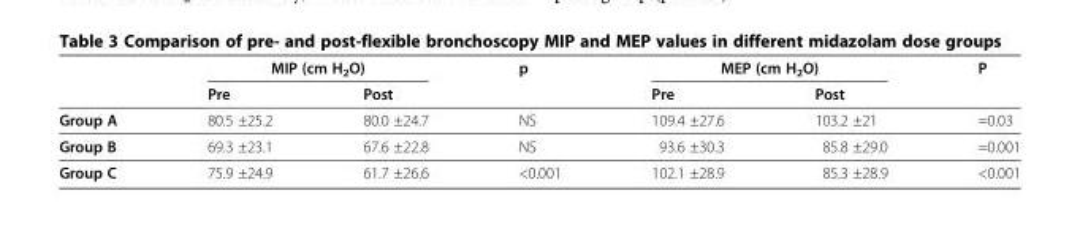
<table><thead><tr><td rowspan="2"></td><td colspan="2">MIP (cm H<sub>2</sub>O)</td><td rowspan="2">p</td><td colspan="2">MEP (cm H<sub>2</sub>O)</td><td rowspan="2">P</td></tr><tr><td>Pre</td><td>Post</td><td>Pre</td><td>Post</td></tr></thead><tbody><tr><td>Group A</td><td>80.5 ±25.2</td><td>80.0 ±24.7</td><td>NS</td><td>109.4 ±27.6</td><td>103.2 ±21</td><td>=0.03</td></tr><tr><td>Group B</td><td>69.3 ±23.1</td><td>67.6 ±22.8</td><td>NS</td><td>93.6 ±30.3</td><td>85.8 ±29.0</td><td>=0.001</td></tr><tr><td>Group C</td><td>75.9 ±24.9</td><td>61.7 ±26.6</td><td>&lt;0.001</td><td>102.1 ±28.9</td><td>85.3 ±28.9</td><td>&lt;0.001</td></tr></tbody></table>